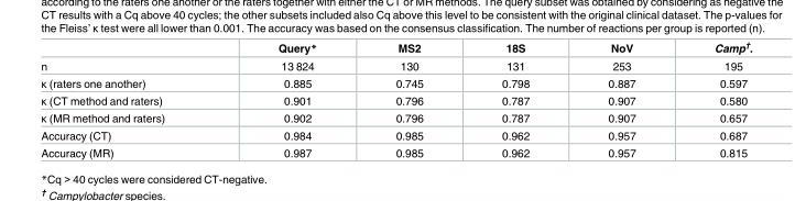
<table><thead><tr><td></td><td>Query*</td><td>MS2</td><td>18S</td><td>NoV</td><td>Camp<sup>†</sup>.</td></tr></thead><tbody><tr><td>n</td><td>13 824</td><td>130</td><td>131</td><td>253</td><td>195</td></tr><tr><td>κ (raters one another)</td><td>0.885</td><td>0.745</td><td>0.798</td><td>0.887</td><td>0.597</td></tr><tr><td>κ (CT method and raters)</td><td>0.901</td><td>0.796</td><td>0.787</td><td>0.907</td><td>0.580</td></tr><tr><td>κ (MR method and raters)</td><td>0.902</td><td>0.796</td><td>0.787</td><td>0.907</td><td>0.657</td></tr><tr><td>Accuracy (CT)</td><td>0.984</td><td>0.985</td><td>0.962</td><td>0.957</td><td>0.687</td></tr><tr><td>Accuracy (MR)</td><td>0.987</td><td>0.985</td><td>0.962</td><td>0.957</td><td>0.815</td></tr></tbody></table>